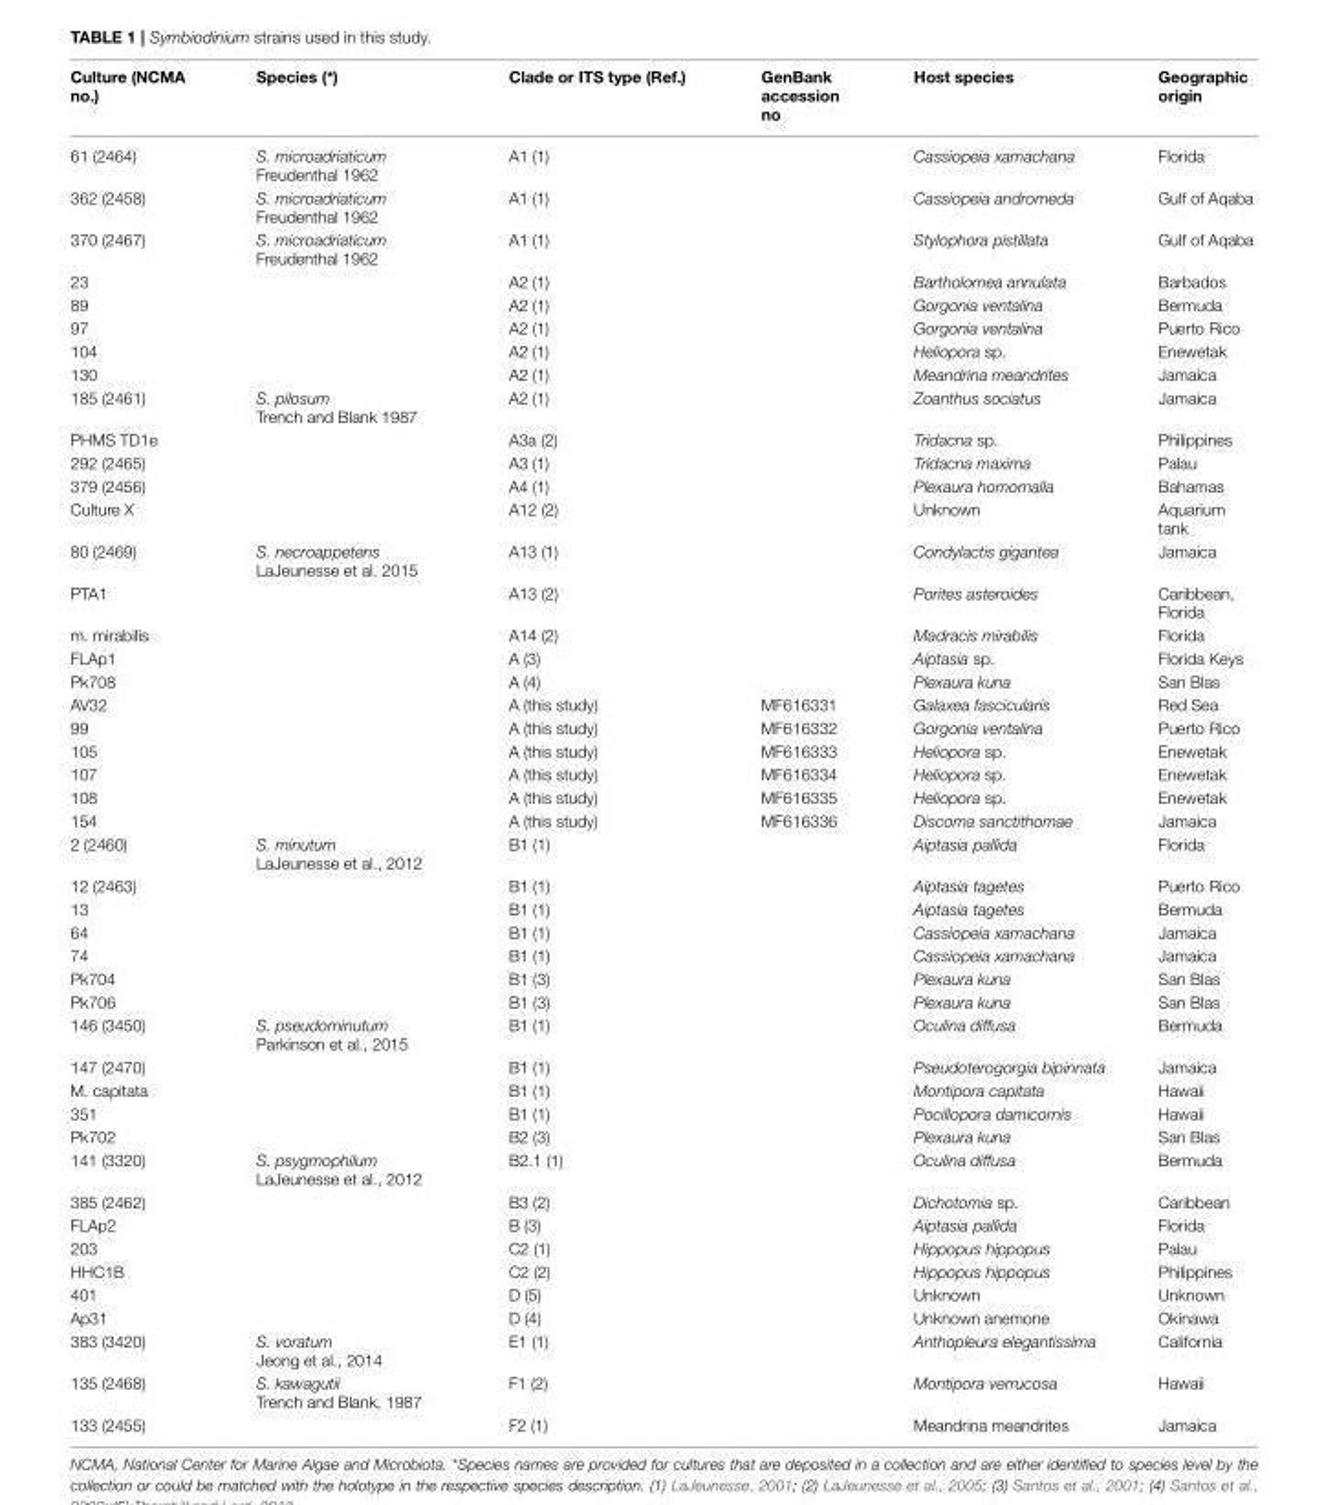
<table><thead><tr><td>Culture (NCMA no.)</td><td>Species (*)</td><td>Clade or ITS type (Ref.)</td><td>GenBank accession no</td><td>Host species</td><td>Geographic origin</td></tr></thead><tbody><tr><td>61 (2464)</td><td>S. microadriaticum Freudenthal 1962</td><td>A1 (1)</td><td></td><td>Cassiopeia xamachana</td><td>Florida</td></tr><tr><td>362 (2458)</td><td>S. microadriaticum Freudenthal 1962</td><td>A1 (1)</td><td></td><td>Cassiopeia andromeda</td><td>Gulf of Aqaba</td></tr><tr><td>370 (2467)</td><td>S. microadriaticum Freudenthal 1962</td><td>A1 (1)</td><td></td><td>Stylophora pistillata</td><td>Gulf of Aqaba</td></tr><tr><td>23</td><td></td><td>A2 (1)</td><td></td><td>Bartholomea annulata</td><td>Barbados</td></tr><tr><td>89</td><td></td><td>A2 (1)</td><td></td><td>Gorgonia ventalina</td><td>Bermuda</td></tr><tr><td>97</td><td></td><td>A2 (1)</td><td></td><td>Gorgonia ventalina</td><td>Puerto Rico</td></tr><tr><td>104</td><td></td><td>A2 (1)</td><td></td><td>Heliopora sp.</td><td>Enewetak</td></tr><tr><td>130</td><td></td><td>A2 (1)</td><td></td><td>Meandrina meandrites</td><td>Jamaica</td></tr><tr><td>185 (2461)</td><td>S. pilosum Trench and Blank 1987</td><td>A2 (1)</td><td></td><td>Zoanthus sociatus</td><td>Jamaica</td></tr><tr><td>PHMS TD1e</td><td></td><td>A3a (2)</td><td></td><td>Tridacna sp.</td><td>Philippines</td></tr><tr><td>292 (2465)</td><td></td><td>A3 (1)</td><td></td><td>Tridacna maxima</td><td>Palau</td></tr><tr><td>379 (2456)</td><td></td><td>A4 (1)</td><td></td><td>Plexaura homomalla</td><td>Bahamas</td></tr><tr><td>Culture X</td><td></td><td>A12 (2)</td><td></td><td>Unknown</td><td>Aquarium tank</td></tr><tr><td>80 (2469)</td><td>S. necroappetens LaJeunesse et al. 2015</td><td>A13 (1)</td><td></td><td>Condylactis gigantea</td><td>Jamaica</td></tr><tr><td>PTA1</td><td></td><td>A13 (2)</td><td></td><td>Porites asteroides</td><td>Caribbean, Florida</td></tr><tr><td>m. mirabilis</td><td></td><td>A14 (2)</td><td></td><td>Madracis mirabilis</td><td>Florida</td></tr><tr><td>FLAp1</td><td></td><td>A (3)</td><td></td><td>Aiptasia sp.</td><td>Florida Keys</td></tr><tr><td>Pk708</td><td></td><td>A (4)</td><td></td><td>Plexaura kuna</td><td>San Blas</td></tr><tr><td>AV32</td><td></td><td>A (this study)</td><td>MF616331</td><td>Galaxea fascicularis</td><td>Red Sea</td></tr><tr><td>99</td><td></td><td>A (this study)</td><td>MF616332</td><td>Gorgonia ventalina</td><td>Puerto Rico</td></tr><tr><td>105</td><td></td><td>A (this study)</td><td>MF616333</td><td>Heliopora sp.</td><td>Enewetak</td></tr><tr><td>107</td><td></td><td>A (this study)</td><td>MF616334</td><td>Heliopora sp.</td><td>Enewetak</td></tr><tr><td>108</td><td></td><td>A (this study)</td><td>MF616335</td><td>Heliopora sp.</td><td>Enewetak</td></tr><tr><td>154</td><td></td><td>A (this study)</td><td>MF616336</td><td>Discoma sanctithomae</td><td>Jamaica</td></tr><tr><td>2 (2460)</td><td>S. minutum LaJeunesse et al., 2012</td><td>B1 (1)</td><td></td><td>Aiptasia pallida</td><td>Florida</td></tr><tr><td>12 (2463)</td><td></td><td>B1 (1)</td><td></td><td>Aiptasia tagetes</td><td>Puerto Rico</td></tr><tr><td>13</td><td></td><td>B1 (1)</td><td></td><td>Aiptasia tagetes</td><td>Bermuda</td></tr><tr><td>64</td><td></td><td>B1 (1)</td><td></td><td>Cassiopeia xamachana</td><td>Jamaica</td></tr><tr><td>74</td><td></td><td>B1 (1)</td><td></td><td>Cassiopeia xamachana</td><td>Jamaica</td></tr><tr><td>Pk704</td><td></td><td>B1 (3)</td><td></td><td>Plexaura kuna</td><td>San Blas</td></tr><tr><td>Pk706</td><td></td><td>B1 (3)</td><td></td><td>Plexaura kuna</td><td>San Blas</td></tr><tr><td>146 (3450)</td><td>S. pseudominutum Parkinson et al., 2015</td><td>B1 (1)</td><td></td><td>Oculina diffusa</td><td>Bermuda</td></tr><tr><td>147 (2470)</td><td></td><td>B1 (1)</td><td></td><td>Pseudoterogorgia bipinnata</td><td>Jamaica</td></tr><tr><td>M. capitata</td><td></td><td>B1 (1)</td><td></td><td>Montipora capitata</td><td>Hawaii</td></tr><tr><td>351</td><td></td><td>B1 (1)</td><td></td><td>Pocillopora damicornis</td><td>Hawaii</td></tr><tr><td>Pk702</td><td></td><td>B2 (3)</td><td></td><td>Plexaura kuna</td><td>San Blas</td></tr><tr><td>141 (3320)</td><td>S. psygmophilum LaJeunesse et al., 2012</td><td>B2.1 (1)</td><td></td><td>Oculina diffusa</td><td>Bermuda</td></tr><tr><td>385 (2462)</td><td></td><td>B3 (2)</td><td></td><td>Dichotomia sp.</td><td>Caribbean</td></tr><tr><td>FLAp2</td><td></td><td>B (3)</td><td></td><td>Aiptasia pallida</td><td>Florida</td></tr><tr><td>203</td><td></td><td>C2 (1)</td><td></td><td>Hippopus hippopus</td><td>Palau</td></tr><tr><td>HHC1B</td><td></td><td>C2 (2)</td><td></td><td>Hippopus hippopus</td><td>Philippines</td></tr><tr><td>401</td><td></td><td>D (5)</td><td></td><td>Unknown</td><td>Unknown</td></tr><tr><td>Ap31</td><td></td><td>D (4)</td><td></td><td>Unknown anemone</td><td>Okinawa</td></tr><tr><td>383 (3420)</td><td>S. voratum Jeong et al., 2014</td><td>E1 (1)</td><td></td><td>Anthopleura elegantissima</td><td>California</td></tr><tr><td>135 (2468)</td><td>S. kawagutii Trench and Blank, 1987</td><td>F1 (2)</td><td></td><td>Montipora verrucosa</td><td>Hawaii</td></tr><tr><td>133 (2455)</td><td></td><td>F2 (1)</td><td></td><td>Meandrina meandrites</td><td>Jamaica</td></tr></tbody></table>